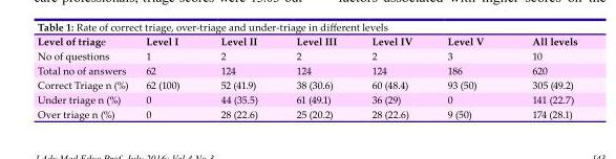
<table><thead><tr><td>Level of triage</td><td>Level I</td><td>Level II</td><td>Level III</td><td>Level IV</td><td>Level V</td><td>All levels</td></tr></thead><tbody><tr><td>No of questions</td><td>1</td><td>2</td><td>2</td><td>2</td><td>3</td><td>10</td></tr><tr><td>Total no of answers</td><td>62</td><td>124</td><td>124</td><td>124</td><td>186</td><td>620</td></tr><tr><td>Correct Triage n (%)</td><td>62 (100)</td><td>52 (41.9)</td><td>38 (30.6)</td><td>60 (48.4)</td><td>93 (50)</td><td>305 (49.2)</td></tr><tr><td>Under triage n (%)</td><td>0</td><td>44 (35.5)</td><td>61 (49.1)</td><td>36 (29)</td><td>0</td><td>141 (22.7)</td></tr><tr><td>Over triage n (%)</td><td>0</td><td>28 (22.6)</td><td>25 (20.2)</td><td>28 (22.6)</td><td>9 (50)</td><td>174 (28.1)</td></tr></tbody></table>